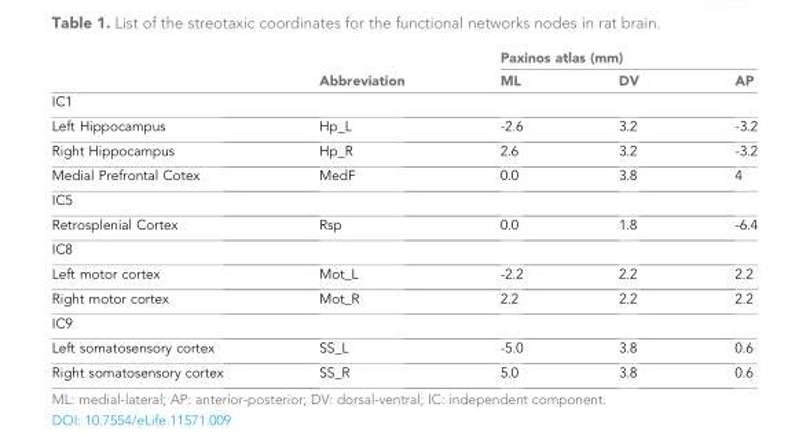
<table><thead><tr><td rowspan="2"></td><td rowspan="2">Abbreviation</td><td colspan="3">Paxinos atlas (mm)</td></tr><tr><td>ML</td><td>DV</td><td>AP</td></tr></thead><tbody><tr><td colspan="5">IC1</td></tr><tr><td>Left Hippocampus</td><td>Hp_L</td><td>-2.6</td><td>3.2</td><td>-3.2</td></tr><tr><td>Right Hippocampus</td><td>Hp_R</td><td>2.6</td><td>3.2</td><td>-3.2</td></tr><tr><td>Medial Prefrontal Cotex</td><td>MedF</td><td>0.0</td><td>3.8</td><td>4</td></tr><tr><td colspan="5">IC5</td></tr><tr><td>Retrosplenial Cortex</td><td>Rsp</td><td>0.0</td><td>1.8</td><td>-6.4</td></tr><tr><td colspan="5">IC8</td></tr><tr><td>Left motor cortex</td><td>Mot_L</td><td>-2.2</td><td>2.2</td><td>2.2</td></tr><tr><td>Right motor cortex</td><td>Mot_R</td><td>2.2</td><td>2.2</td><td>2.2</td></tr><tr><td colspan="5">IC9</td></tr><tr><td>Left somatosensory cortex</td><td>SS_L</td><td>-5.0</td><td>3.8</td><td>0.6</td></tr><tr><td>Right somatosensory cortex</td><td>SS_R</td><td>5.0</td><td>3.8</td><td>0.6</td></tr></tbody></table>